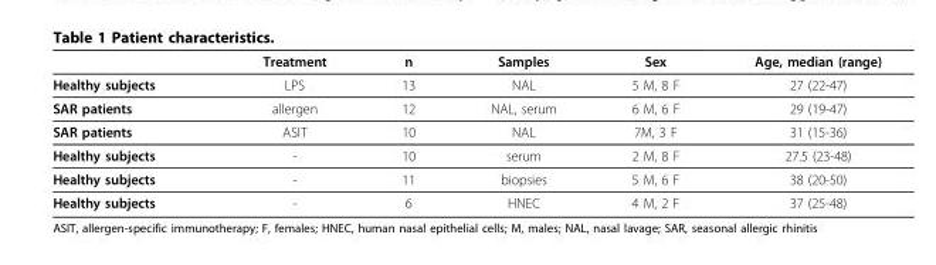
<table><thead><tr><td></td><td>Treatment</td><td>n</td><td>Samples</td><td>Sex</td><td>Age, median (range)</td></tr></thead><tbody><tr><td>Healthy subjects</td><td>LPS</td><td>13</td><td>NAL</td><td>5 M, 8 F</td><td>27 (22-47)</td></tr><tr><td>SAR patients</td><td>allergen</td><td>12</td><td>NAL, serum</td><td>6 M, 6 F</td><td>29 (19-47)</td></tr><tr><td>SAR patients</td><td>ASIT</td><td>10</td><td>NAL</td><td>7M, 3 F</td><td>31 (15-36)</td></tr><tr><td>Healthy subjects</td><td>-</td><td>10</td><td>serum</td><td>2 M, 8 F</td><td>27.5 (23-48)</td></tr><tr><td>Healthy subjects</td><td>-</td><td>11</td><td>biopsies</td><td>5 M, 6 F</td><td>38 (20-50)</td></tr><tr><td>Healthy subjects</td><td>-</td><td>6</td><td>HNEC</td><td>4 M, 2 F</td><td>37 (25-48)</td></tr></tbody></table>